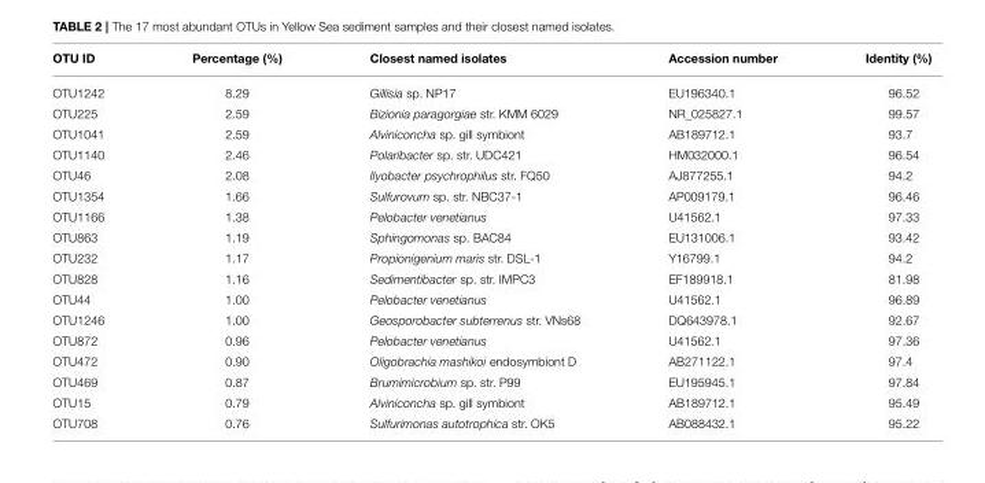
<table><thead><tr><td>OTU ID</td><td>Percentage (%)</td><td>Closest named isolates</td><td>Accession number</td><td>Identity (%)</td></tr></thead><tbody><tr><td>OTU1242</td><td>8.29</td><td>Gillisia sp. NP17</td><td>EU196340.1</td><td>96.52</td></tr><tr><td>OTU225</td><td>2.59</td><td>Bizionia paragorgiae str. KMM 6029</td><td>NR_025827.1</td><td>99.57</td></tr><tr><td>OTU1041</td><td>2.59</td><td>Alviniconcha sp. gill symbiont</td><td>AB189712.1</td><td>93.7</td></tr><tr><td>OTU1140</td><td>2.46</td><td>Polaribacter sp. str. UDC421</td><td>HM032000.1</td><td>96.54</td></tr><tr><td>OTU46</td><td>2.08</td><td>Ilyobacter psychrophilus str. FQ50</td><td>AJ877255.1</td><td>94.2</td></tr><tr><td>OTU1354</td><td>1.66</td><td>Sulfurovum sp. str. NBC37-1</td><td>AP009179.1</td><td>96.46</td></tr><tr><td>OTU1166</td><td>1.38</td><td>Pelobacter venetianus</td><td>U41562.1</td><td>97.33</td></tr><tr><td>OTU863</td><td>1.19</td><td>Sphingomonas sp. BAC84</td><td>EU131006.1</td><td>93.42</td></tr><tr><td>OTU232</td><td>1.17</td><td>Propionigenium maris str. DSL-1</td><td>Y16799.1</td><td>94.2</td></tr><tr><td>OTU828</td><td>1.16</td><td>Sedimentibacter sp. str. IMPC3</td><td>EF189918.1</td><td>81.98</td></tr><tr><td>OTU44</td><td>1.00</td><td>Pelobacter venetianus</td><td>U41562.1</td><td>96.89</td></tr><tr><td>OTU1246</td><td>1.00</td><td>Geosporobacter subterrenus str. VNs68</td><td>DQ643978.1</td><td>92.67</td></tr><tr><td>OTU872</td><td>0.96</td><td>Pelobacter venetianus</td><td>U41562.1</td><td>97.36</td></tr><tr><td>OTU472</td><td>0.90</td><td>Oligobrachia mashikoi endosymbiont D</td><td>AB271122.1</td><td>97.4</td></tr><tr><td>OTU469</td><td>0.87</td><td>Brumimicrobium sp. str. P99</td><td>EU195945.1</td><td>97.84</td></tr><tr><td>OTU15</td><td>0.79</td><td>Alviniconcha sp. gill symbiont</td><td>AB189712.1</td><td>95.49</td></tr><tr><td>OTU708</td><td>0.76</td><td>Sulfurimonas autotrophica str. OK5</td><td>AB088432.1</td><td>95.22</td></tr></tbody></table>